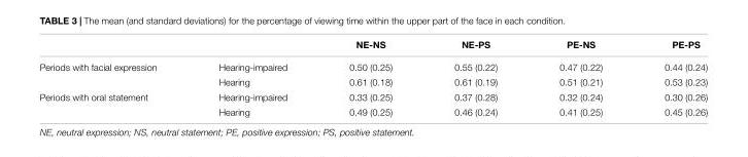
<table><thead><tr><td></td><td></td><td>NE-NS</td><td>NE-PS</td><td>PE-NS</td><td>PE-PS</td></tr></thead><tbody><tr><td rowspan="2">Periods with facial expression</td><td>Hearing-impaired</td><td>0.50 (0.25)</td><td>0.55 (0.22)</td><td>0.47 (0.22)</td><td>0.44 (0.24)</td></tr><tr><td>Hearing</td><td>0.61 (0.18)</td><td>0.61 (0.19)</td><td>0.51 (0.21)</td><td>0.53 (0.23)</td></tr><tr><td rowspan="2">Periods with oral statement</td><td>Hearing-impaired</td><td>0.33 (0.25)</td><td>0.37 (0.28)</td><td>0.32 (0.24)</td><td>0.30 (0.26)</td></tr><tr><td>Hearing</td><td>0.49 (0.25)</td><td>0.46 (0.24)</td><td>0.41 (0.25)</td><td>0.45 (0.26)</td></tr></tbody></table>